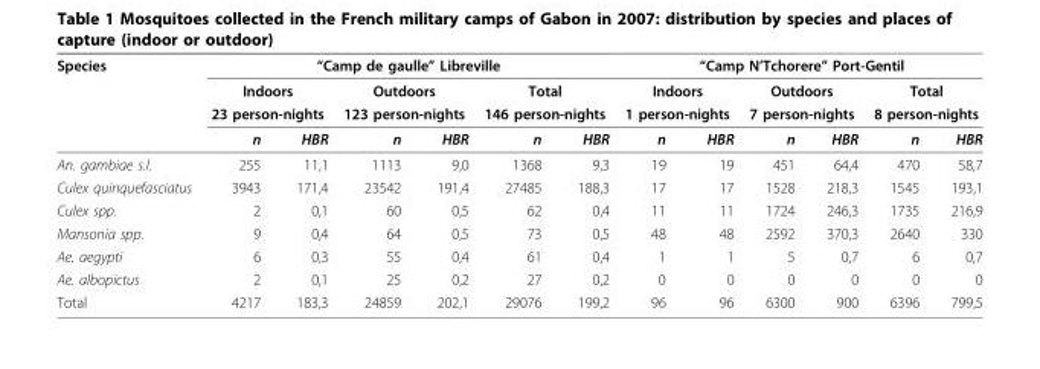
<table><thead><tr><td rowspan="4">Species</td><td colspan="6">“Camp de gaulle” Libreville</td><td colspan="6">“Camp N’Tchorere” Port-Gentil</td></tr><tr><td rowspan="2" colspan="2">Indoors 23 person-nights</td><td rowspan="2" colspan="2">Outdoors 123 person-nights</td><td rowspan="2" colspan="2">Total 146 person-nights</td><td rowspan="2" colspan="2">Indoors 1 person-nights</td><td rowspan="2" colspan="2">Outdoors 7 person-nights</td><td rowspan="2" colspan="2">Total 8 person-nights</td></tr><tr></tr><tr><td>n</td><td>HBR</td><td>n</td><td>HBR</td><td>n</td><td>HBR</td><td>n</td><td>HBR</td><td>n</td><td>HBR</td><td>n</td><td>HBR</td></tr></thead><tbody><tr><td>An. gambiae s.l.</td><td>255</td><td>11,1</td><td>1113</td><td>9,0</td><td>1368</td><td>9,3</td><td>19</td><td>19</td><td>451</td><td>64,4</td><td>470</td><td>58,7</td></tr><tr><td>Culex quinquefasciatus</td><td>3943</td><td>171,4</td><td>23542</td><td>191,4</td><td>27485</td><td>188,3</td><td>17</td><td>17</td><td>1528</td><td>218,3</td><td>1545</td><td>193,1</td></tr><tr><td>Culex spp.</td><td>2</td><td>0,1</td><td>60</td><td>0,5</td><td>62</td><td>0,4</td><td>11</td><td>11</td><td>1724</td><td>246,3</td><td>1735</td><td>216,9</td></tr><tr><td>Mansonia spp.</td><td>9</td><td>0,4</td><td>64</td><td>0,5</td><td>73</td><td>0,5</td><td>48</td><td>48</td><td>2592</td><td>370,3</td><td>2640</td><td>330</td></tr><tr><td>Ae. aegypti</td><td>6</td><td>0,3</td><td>55</td><td>0,4</td><td>61</td><td>0,4</td><td>1</td><td>1</td><td>5</td><td>0,7</td><td>6</td><td>0,7</td></tr><tr><td>Ae. albopictus</td><td>2</td><td>0,1</td><td>25</td><td>0,2</td><td>27</td><td>0,2</td><td>0</td><td>0</td><td>0</td><td>0</td><td>0</td><td>0</td></tr><tr><td>Total</td><td>4217</td><td>183,3</td><td>24859</td><td>202,1</td><td>29076</td><td>199,2</td><td>96</td><td>96</td><td>6300</td><td>900</td><td>6396</td><td>799,5</td></tr></tbody></table>